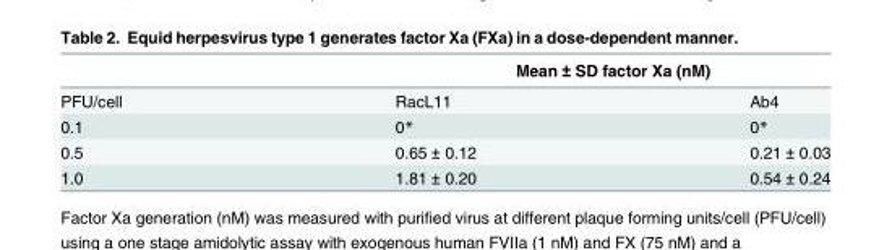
<table><thead><tr><td rowspan="2">PFU/cell</td><td colspan="2">Mean ± SD factor Xa (nM)</td></tr><tr><td>RacL11</td><td>Ab4</td></tr></thead><tbody><tr><td>0.1</td><td>0*</td><td>0*</td></tr><tr><td>0.5</td><td>0.65 ± 0.12</td><td>0.21 ± 0.03</td></tr><tr><td>1.0</td><td>1.81 ± 0.20</td><td>0.54 ± 0.24</td></tr></tbody></table>